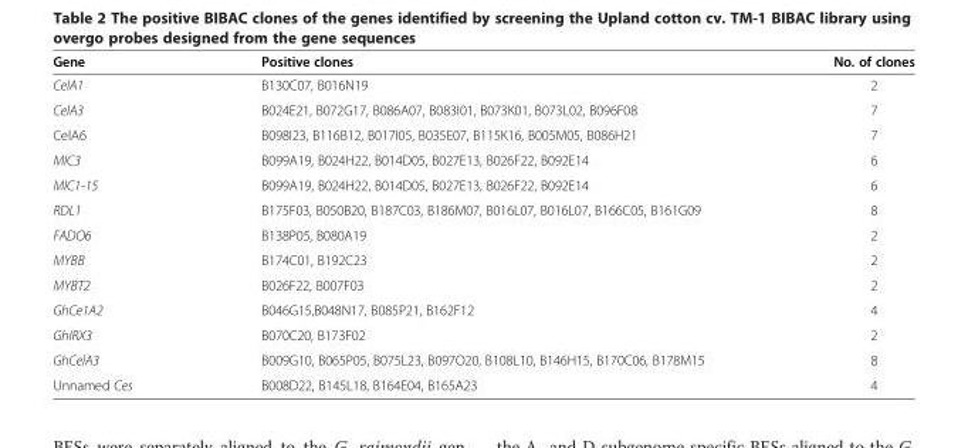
<table><thead><tr><td>Gene</td><td>Positive clones</td><td>No. of clones</td></tr></thead><tbody><tr><td>CelA1</td><td>B130C07, B016N19</td><td>2</td></tr><tr><td>CelA3</td><td>B024E21, B072G17, B086A07, B083I01, B073K01, B073L02, B096F08</td><td>7</td></tr><tr><td>CelA6</td><td>B098I23, B116B12, B017I05, B035E07, B115K16, B005M05, B086H21</td><td>7</td></tr><tr><td>MIC3</td><td>B099A19, B024H22, B014D05, B027E13, B026F22, B092E14</td><td>6</td></tr><tr><td>MIC1-15</td><td>B099A19, B024H22, B014D05, B027E13, B026F22, B092E14</td><td>6</td></tr><tr><td>RDL1</td><td>B175F03, B050B20, B187C03, B186M07, B016L07, B016L07, B166C05, B161G09</td><td>8</td></tr><tr><td>FADO6</td><td>B138P05, B080A19</td><td>2</td></tr><tr><td>MYBB</td><td>B174C01, B192C23</td><td>2</td></tr><tr><td>MYBT2</td><td>B026F22, B007F03</td><td>2</td></tr><tr><td>GhCe1A2</td><td>B046G15,B048N17, B085P21, B162F12</td><td>4</td></tr><tr><td>GhIRX3</td><td>B070C20, B173F02</td><td>2</td></tr><tr><td>GhCelA3</td><td>B009G10, B065P05, B075L23, B097O20, B108L10, B146H15, B170C06, B178M15</td><td>8</td></tr><tr><td>Unnamed Ces</td><td>B008D22, B145L18, B164E04, B165A23</td><td>4</td></tr></tbody></table>